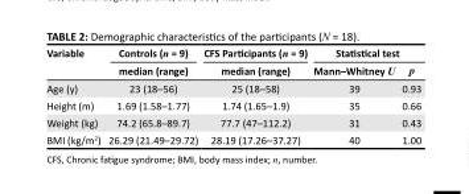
<table><thead><tr><td rowspan="2">Variable</td><td rowspan="2">Controls (n = 9) median (range)</td><td rowspan="2">CFS Participants (n = 9) median (range)</td><td colspan="2">Statistical test</td></tr><tr><td>Mann–Whitney U</td><td>p</td></tr></thead><tbody><tr><td>Age (y)</td><td>23 (18–56)</td><td>25 (18–58)</td><td>39</td><td>0.93</td></tr><tr><td>Height (m)</td><td>1.69 (1.58–1.77)</td><td>1.74 (1.65–1.9)</td><td>35</td><td>0.66</td></tr><tr><td>Weight (kg)</td><td>74.2 (65.8–89.7)</td><td>77.7 (47–112.2)</td><td>31</td><td>0.43</td></tr><tr><td>BMI (kg/m<sup>2</sup>)</td><td>26.29 (21.49–29.72)</td><td>28.19 (17.26–37.27)</td><td>40</td><td>1.00</td></tr></tbody></table>